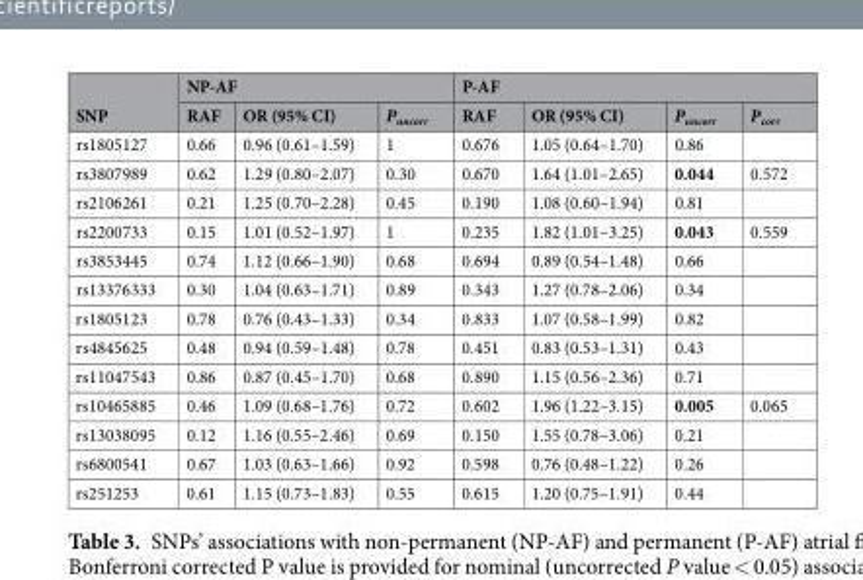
<table><thead><tr><td rowspan="2">SNP</td><td colspan="3">NP-AF</td><td colspan="4">P-AF</td></tr><tr><td>RAF</td><td>OR (95% CI)</td><td>P<sub>uncorr</sub></td><td>RAF</td><td>OR (95% CI)</td><td>P<sub>uncorr</sub></td><td>P<sub>corr</sub></td></tr></thead><tbody><tr><td>rs1805127</td><td>0.66</td><td>0.96 (0.61–1.59)</td><td>1</td><td>0.676</td><td>1.05 (0.64–1.70)</td><td>0.86</td><td></td></tr><tr><td>rs3807989</td><td>0.62</td><td>1.29 (0.80–2.07)</td><td>0.30</td><td>0.670</td><td>1.64 (1.01–2.65)</td><td>0.044</td><td>0.572</td></tr><tr><td>rs2106261</td><td>0.21</td><td>1.25 (0.70–2.28)</td><td>0.45</td><td>0.190</td><td>1.08 (0.60–1.94)</td><td>0.81</td><td></td></tr><tr><td>rs2200733</td><td>0.15</td><td>1.01 (0.52–1.97)</td><td>1</td><td>0.235</td><td>1.82 (1.01–3.25)</td><td>0.043</td><td>0.559</td></tr><tr><td>rs3853445</td><td>0.74</td><td>1.12 (0.66–1.90)</td><td>0.68</td><td>0.694</td><td>0.89 (0.54–1.48)</td><td>0.66</td><td></td></tr><tr><td>rs13376333</td><td>0.30</td><td>1.04 (0.63–1.71)</td><td>0.89</td><td>0.343</td><td>1.27 (0.78–2.06)</td><td>0.34</td><td></td></tr><tr><td>rs1805123</td><td>0.78</td><td>0.76 (0.43–1.33)</td><td>0.34</td><td>0.833</td><td>1.07 (0.58–1.99)</td><td>0.82</td><td></td></tr><tr><td>rs4845625</td><td>0.48</td><td>0.94 (0.59–1.48)</td><td>0.78</td><td>0.451</td><td>0.83 (0.53–1.31)</td><td>0.43</td><td></td></tr><tr><td>rs11047543</td><td>0.86</td><td>0.87 (0.45–1.70)</td><td>0.68</td><td>0.890</td><td>1.15 (0.56–2.36)</td><td>0.71</td><td></td></tr><tr><td>rs10465885</td><td>0.46</td><td>1.09 (0.68–1.76)</td><td>0.72</td><td>0.602</td><td>1.96 (1.22–3.15)</td><td>0.005</td><td>0.065</td></tr><tr><td>rs13038095</td><td>0.12</td><td>1.16 (0.55–2.46)</td><td>0.69</td><td>0.150</td><td>1.55 (0.78–3.06)</td><td>0.21</td><td></td></tr><tr><td>rs6800541</td><td>0.67</td><td>1.03 (0.63–1.66)</td><td>0.92</td><td>0.598</td><td>0.76 (0.48–1.22)</td><td>0.26</td><td></td></tr><tr><td>rs251253</td><td>0.61</td><td>1.15 (0.73–1.83)</td><td>0.55</td><td>0.615</td><td>1.20 (0.75–1.91)</td><td>0.44</td><td></td></tr></tbody></table>